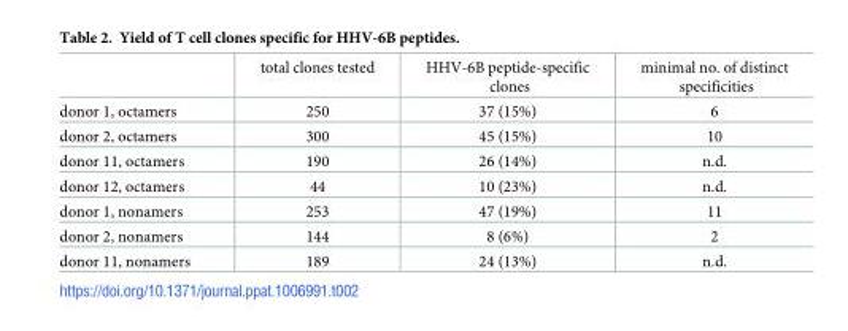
<table><thead><tr><td></td><td>total clones tested</td><td>HHV-6B peptide-specific clones</td><td>minimal no. of distinct specificities</td></tr></thead><tbody><tr><td>donor 1, octamers</td><td>250</td><td>37 (15%)</td><td>6</td></tr><tr><td>donor 2, octamers</td><td>300</td><td>45 (15%)</td><td>10</td></tr><tr><td>donor 11, octamers</td><td>190</td><td>26 (14%)</td><td>n.d.</td></tr><tr><td>donor 12, octamers</td><td>44</td><td>10 (23%)</td><td>n.d.</td></tr><tr><td>donor 1, nonamers</td><td>253</td><td>47 (19%)</td><td>11</td></tr><tr><td>donor 2, nonamers</td><td>144</td><td>8 (6%)</td><td>2</td></tr><tr><td>donor 11, nonamers</td><td>189</td><td>24 (13%)</td><td>n.d.</td></tr></tbody></table>